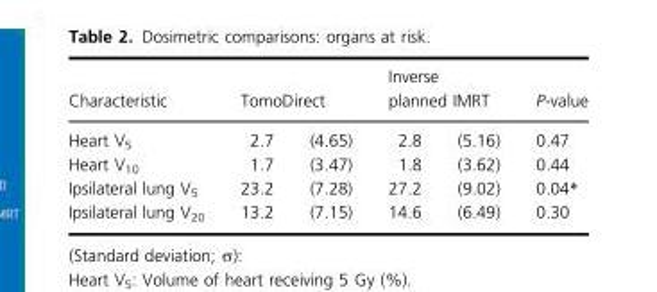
<table><thead><tr><td rowspan="2">Characteristic Heart V<sub>5</sub></td><td colspan="2">TomoDirect</td><td colspan="2">Inverse planned IMRT</td><td rowspan="2">P-value 0.47</td></tr><tr><td>2.7</td><td>(4.65)</td><td>2.8</td><td>(5.16)</td></tr></thead><tbody><tr><td>Heart V<sub>10</sub></td><td>1.7</td><td>(3.47)</td><td>1.8</td><td>(3.62)</td><td>0.44</td></tr><tr><td>Ipsilateral lung V<sub>5</sub></td><td>23.2</td><td>(7.28)</td><td>27.2</td><td>(9.02)</td><td>0.04*</td></tr><tr><td>Ipsilateral lung V<sub>20</sub></td><td>13.2</td><td>(7.15)</td><td>14.6</td><td>(6.49)</td><td>0.30</td></tr></tbody></table>